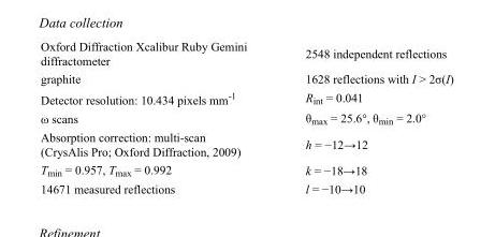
<table><tbody><tr><td>Oxford Diffraction Xcalibur Ruby Gemini diffractometer</td><td>2548 independent reflections</td></tr><tr><td>graphite</td><td>1628 reflections with I &gt; 2σ(I)</td></tr><tr><td>Detector resolution: 10.434 pixels mm<sup>-1</sup></td><td>R<sub>int</sub> = 0.041</td></tr><tr><td>ω scans</td><td>θ<sub>max</sub> = 25.6°, θ<sub>min</sub> = 2.0°</td></tr><tr><td>Absorption correction: multi-scan (CrysAlis Pro; Oxford Diffraction, 2009)</td><td>h = −12→12</td></tr><tr><td>T<sub>min</sub> = 0.957, T<sub>max</sub> = 0.992</td><td>k = −18→18</td></tr><tr><td>14671 measured reflections</td><td>l = −10→10</td></tr></tbody></table>